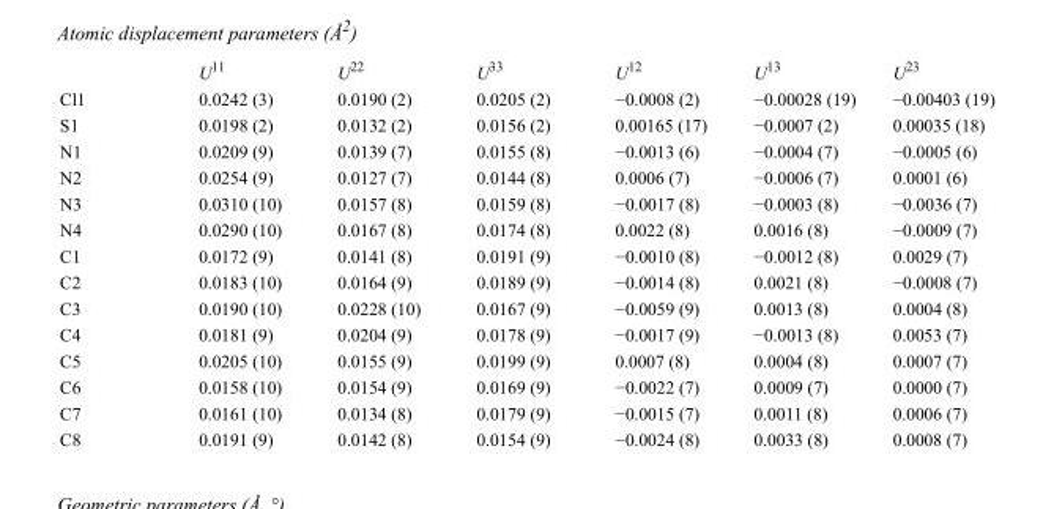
<table><thead><tr><td></td><td>U<sup>11</sup></td><td>U<sup>22</sup></td><td>U<sup>33</sup></td><td>U<sup>12</sup></td><td>U<sup>13</sup></td><td>U<sup>23</sup></td></tr></thead><tbody><tr><td>Cl1</td><td>0.0242 (3)</td><td>0.0190 (2)</td><td>0.0205 (2)</td><td>−0.0008 (2)</td><td>−0.00028 (19)</td><td>−0.00403 (19)</td></tr><tr><td>S1</td><td>0.0198 (2)</td><td>0.0132 (2)</td><td>0.0156 (2)</td><td>0.00165 (17)</td><td>−0.0007 (2)</td><td>0.00035 (18)</td></tr><tr><td>N1</td><td>0.0209 (9)</td><td>0.0139 (7)</td><td>0.0155 (8)</td><td>−0.0013 (6)</td><td>−0.0004 (7)</td><td>−0.0005 (6)</td></tr><tr><td>N2</td><td>0.0254 (9)</td><td>0.0127 (7)</td><td>0.0144 (8)</td><td>0.0006 (7)</td><td>−0.0006 (7)</td><td>0.0001 (6)</td></tr><tr><td>N3</td><td>0.0310 (10)</td><td>0.0157 (8)</td><td>0.0159 (8)</td><td>−0.0017 (8)</td><td>−0.0003 (8)</td><td>−0.0036 (7)</td></tr><tr><td>N4</td><td>0.0290 (10)</td><td>0.0167 (8)</td><td>0.0174 (8)</td><td>0.0022 (8)</td><td>0.0016 (8)</td><td>−0.0009 (7)</td></tr><tr><td>C1</td><td>0.0172 (9)</td><td>0.0141 (8)</td><td>0.0191 (9)</td><td>−0.0010 (8)</td><td>−0.0012 (8)</td><td>0.0029 (7)</td></tr><tr><td>C2</td><td>0.0183 (10)</td><td>0.0164 (9)</td><td>0.0189 (9)</td><td>−0.0014 (8)</td><td>0.0021 (8)</td><td>−0.0008 (7)</td></tr><tr><td>C3</td><td>0.0190 (10)</td><td>0.0228 (10)</td><td>0.0167 (9)</td><td>−0.0059 (9)</td><td>0.0013 (8)</td><td>0.0004 (8)</td></tr><tr><td>C4</td><td>0.0181 (9)</td><td>0.0204 (9)</td><td>0.0178 (9)</td><td>−0.0017 (9)</td><td>−0.0013 (8)</td><td>0.0053 (7)</td></tr><tr><td>C5</td><td>0.0205 (10)</td><td>0.0155 (9)</td><td>0.0199 (9)</td><td>0.0007 (8)</td><td>0.0004 (8)</td><td>0.0007 (7)</td></tr><tr><td>C6</td><td>0.0158 (10)</td><td>0.0154 (9)</td><td>0.0169 (9)</td><td>−0.0022 (7)</td><td>0.0009 (7)</td><td>0.0000 (7)</td></tr><tr><td>C7</td><td>0.0161 (10)</td><td>0.0134 (8)</td><td>0.0179 (9)</td><td>−0.0015 (7)</td><td>0.0011 (8)</td><td>0.0006 (7)</td></tr><tr><td>C8</td><td>0.0191 (9)</td><td>0.0142 (8)</td><td>0.0154 (9)</td><td>−0.0024 (8)</td><td>0.0033 (8)</td><td>0.0008 (7)</td></tr></tbody></table>